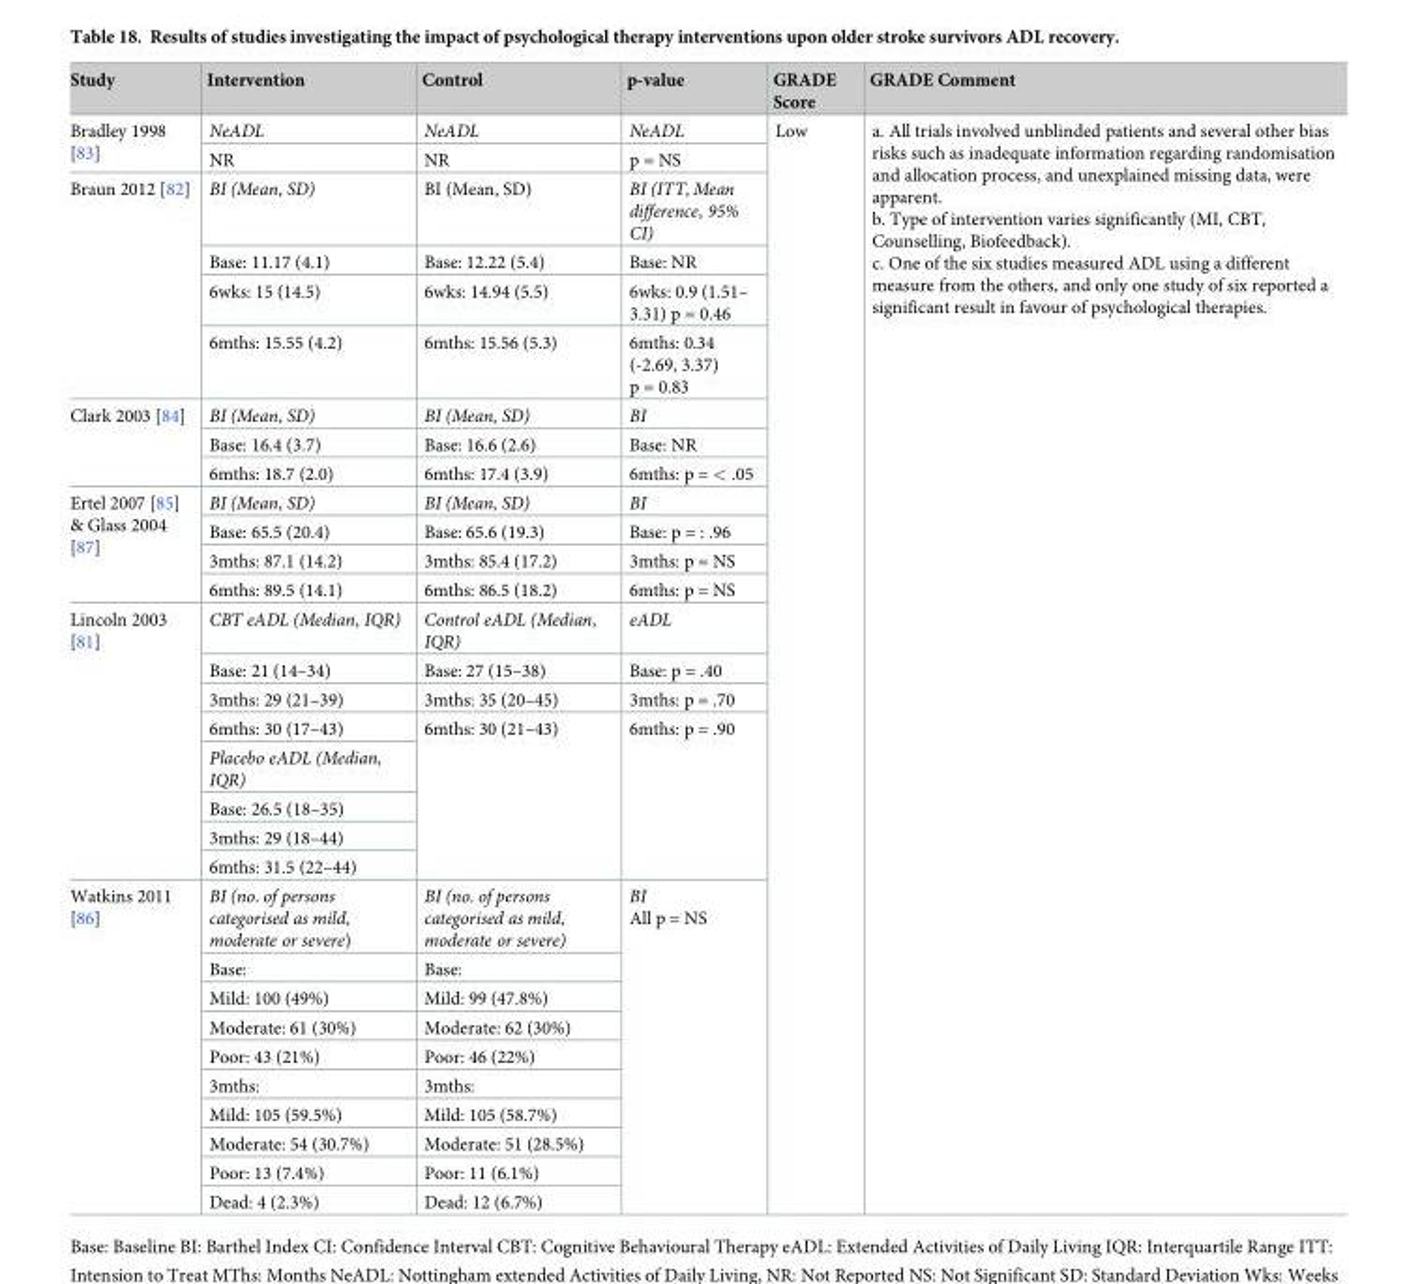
<table><thead><tr><td>Study</td><td>Intervention</td><td>Control</td><td>p-value</td><td>GRADE Score</td><td>GRADE Comment</td></tr></thead><tbody><tr><td rowspan="2">Bradley 1998 [83]</td><td>NeADL</td><td>NeADL</td><td>NeADL</td><td rowspan="31">Low</td><td rowspan="31">a. All trials involved unblinded patients and several other bias risks such as inadequate information regarding randomisation and allocation process, and unexplained missing data, were apparent. b. Type of intervention varies significantly (MI, CBT, Counselling, Biofeedback). c. One of the six studies measured ADL using a different measure from the others, and only one study of six reported a significant result in favour of psychological therapies.</td></tr><tr><td>NR</td><td>NR</td><td>p = NS</td></tr><tr><td rowspan="4">Braun 2012 [82]</td><td>BI (Mean, SD)</td><td>BI (Mean, SD)</td><td>BI (ITT, Mean difference, 95% CI)</td></tr><tr><td>Base: 11.17 (4.1)</td><td>Base: 12.22 (5.4)</td><td>Base: NR</td></tr><tr><td>6wks: 15 (14.5)</td><td>6wks: 14.94 (5.5)</td><td>6wks: 0.9 (1.51– 3.31) p = 0.46</td></tr><tr><td>6mths: 15.55 (4.2)</td><td>6mths: 15.56 (5.3)</td><td>6mths: 0.34 (-2.69, 3.37) p = 0.83</td></tr><tr><td rowspan="3">Clark 2003 [84]</td><td>BI (Mean, SD)</td><td>BI (Mean, SD)</td><td>BI</td></tr><tr><td>Base: 16.4 (3.7)</td><td>Base: 16.6 (2.6)</td><td>Base: NR</td></tr><tr><td>6mths: 18.7 (2.0)</td><td>6mths: 17.4 (3.9)</td><td>6mths: p = &lt; .05</td></tr><tr><td rowspan="4">Ertel 2007 [85] &amp; Glass 2004 [87]</td><td>BI (Mean, SD)</td><td>BI (Mean, SD)</td><td>BI</td></tr><tr><td>Base: 65.5 (20.4)</td><td>Base: 65.6 (19.3)</td><td>Base: p = : .96</td></tr><tr><td>3mths: 87.1 (14.2)</td><td>3mths: 85.4 (17.2)</td><td>3mths: p = NS</td></tr><tr><td>6mths: 89.5 (14.1)</td><td>6mths: 86.5 (18.2)</td><td>6mths: p = NS</td></tr><tr><td rowspan="8">Lincoln 2003 [81]</td><td>CBT eADL (Median, IQR)</td><td>Control eADL (Median, IQR)</td><td>eADL</td></tr><tr><td>Base: 21 (14–34)</td><td>Base: 27 (15–38)</td><td>Base: p = .40</td></tr><tr><td>3mths: 29 (21–39)</td><td>3mths: 35 (20–45)</td><td>3mths: p = .70</td></tr><tr><td>6mths: 30 (17–43)</td><td rowspan="5">6mths: 30 (21–43)</td><td rowspan="5">6mths: p = .90</td></tr><tr><td>Placebo eADL (Median, IQR)</td></tr><tr><td>Base: 26.5 (18–35)</td></tr><tr><td>3mths: 29 (18–44)</td></tr><tr><td>6mths: 31.5 (22–44)</td></tr><tr><td rowspan="10">Watkins 2011 [86]</td><td>BI (no. of persons categorised as mild, moderate or severe)</td><td>BI (no. of persons categorised as mild, moderate or severe)</td><td rowspan="10">BI All p = NS</td></tr><tr><td>Base:</td><td>Base:</td></tr><tr><td>Mild: 100 (49%)</td><td>Mild: 99 (47.8%)</td></tr><tr><td>Moderate: 61 (30%)</td><td>Moderate: 62 (30%)</td></tr><tr><td>Poor: 43 (21%)</td><td>Poor: 46 (22%)</td></tr><tr><td>3mths:</td><td>3mths:</td></tr><tr><td>Mild: 105 (59.5%)</td><td>Mild: 105 (58.7%)</td></tr><tr><td>Moderate: 54 (30.7%)</td><td>Moderate: 51 (28.5%)</td></tr><tr><td>Poor: 13 (7.4%)</td><td>Poor: 11 (6.1%)</td></tr><tr><td>Dead: 4 (2.3%)</td><td>Dead: 12 (6.7%)</td></tr></tbody></table>